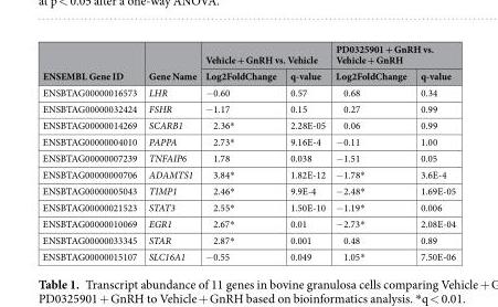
<table><thead><tr><td rowspan="2">ENSEMBL Gene ID</td><td rowspan="2">Gene Name</td><td colspan="2">Vehicle + GnRH vs. Vehicle</td><td colspan="2">PD0325901 + GnRH vs. Vehicle + GnRH</td></tr><tr><td>Log2FoldChange</td><td>q-value</td><td>Log2FoldChange</td><td>q-value</td></tr></thead><tbody><tr><td>ENSBTAG00000016573</td><td>LHR</td><td>−0.60</td><td>0.57</td><td>0.68</td><td>0.34</td></tr><tr><td>ENSBTAG00000032424</td><td>FSHR</td><td>−1.17</td><td>0.15</td><td>0.27</td><td>0.99</td></tr><tr><td>ENSBTAG00000014269</td><td>SCARB1</td><td>2.36*</td><td>2.28E-05</td><td>0.06</td><td>0.99</td></tr><tr><td>ENSBTAG00000004010</td><td>PAPPA</td><td>2.73*</td><td>9.16E-4</td><td>−0.11</td><td>1.00</td></tr><tr><td>ENSBTAG00000007239</td><td>TNFAIP6</td><td>1.78</td><td>0.038</td><td>−1.51</td><td>0.05</td></tr><tr><td>ENSBTAG00000000706</td><td>ADAMTS1</td><td>3.84*</td><td>1.82E-12</td><td>−1.78*</td><td>3.6E-4</td></tr><tr><td>ENSBTAG00000005043</td><td>TIMP1</td><td>2.46*</td><td>9.9E-4</td><td>−2.48*</td><td>1.69E-05</td></tr><tr><td>ENSBTAG00000021523</td><td>STAT3</td><td>2.55*</td><td>1.50E-10</td><td>−1.19*</td><td>0.006</td></tr><tr><td>ENSBTAG00000010069</td><td>EGR1</td><td>2.67*</td><td>0.01</td><td>−2.73*</td><td>2.08E-04</td></tr><tr><td>ENSBTAG00000033345</td><td>STAR</td><td>2.87*</td><td>0.001</td><td>0.48</td><td>0.89</td></tr><tr><td>ENSBTAG00000015107</td><td>SLC16A1</td><td>−0.55</td><td>0.049</td><td>1.05*</td><td>7.50E-06</td></tr></tbody></table>